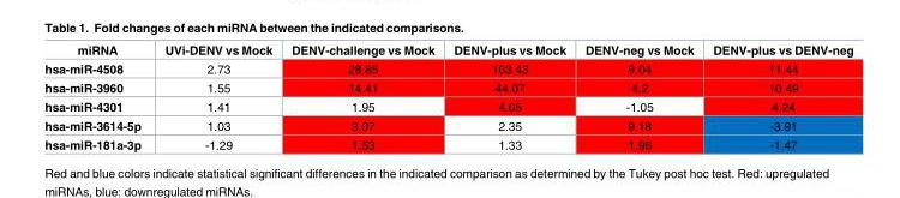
<table><thead><tr><td>miRNA</td><td>UVi-DENV vs Mock</td><td>DENV-challenge vs Mock</td><td>DENV-plus vs Mock</td><td>DENV-neg vs Mock</td><td>DENV-plus vs DENV-neg</td></tr></thead><tbody><tr><td>hsa-miR-4508</td><td>2.73</td><td>28.85</td><td>103.43</td><td>9.04</td><td>11.44</td></tr><tr><td>hsa-miR-3960</td><td>1.55</td><td>14.41</td><td>44.07</td><td>4.2</td><td>10.49</td></tr><tr><td>hsa-miR-4301</td><td>1.41</td><td>1.95</td><td>4.05</td><td>-1.05</td><td>4.24</td></tr><tr><td>hsa-miR-3614-5p</td><td>1.03</td><td>3.07</td><td>2.35</td><td>9.18</td><td>-3.91</td></tr><tr><td>hsa-miR-181a-3p</td><td>-1.29</td><td>1.53</td><td>1.33</td><td>1.96</td><td>-1.47</td></tr></tbody></table>